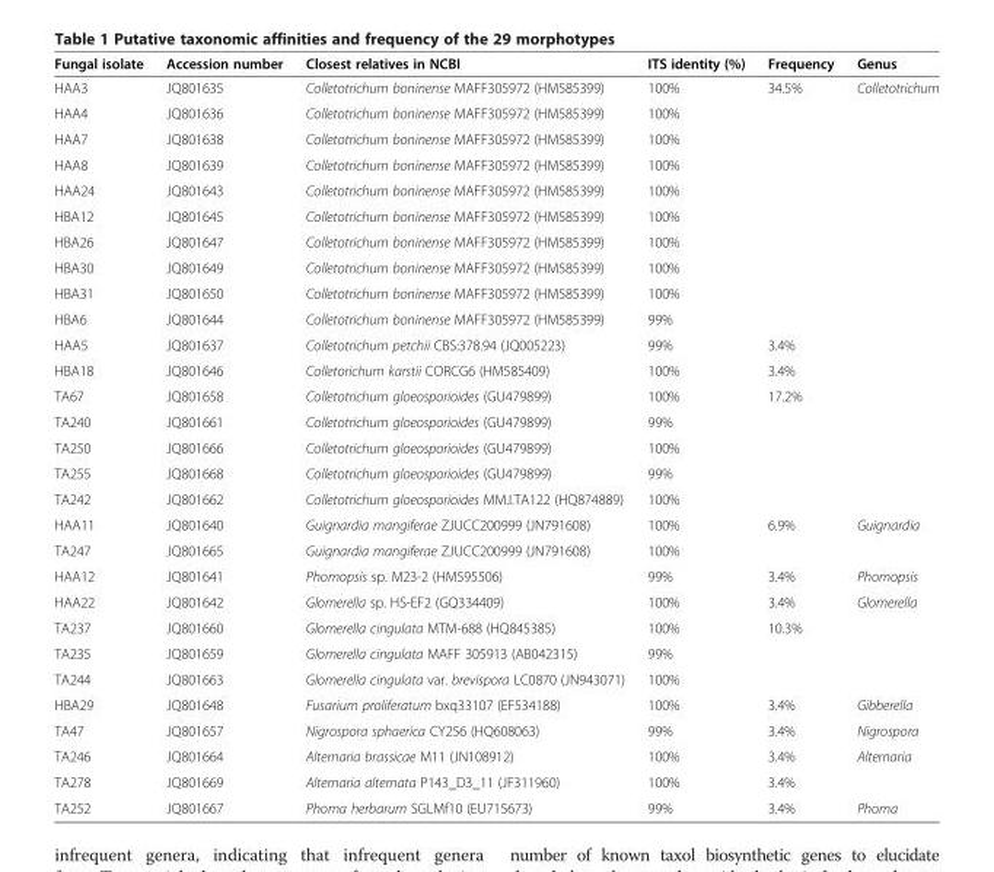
<table><thead><tr><td>Fungal isolate</td><td>Accession number</td><td>Closest relatives in NCBI</td><td>ITS identity (%)</td><td>Frequency</td><td>Genus</td></tr></thead><tbody><tr><td>HAA3</td><td>JQ801635</td><td>Colletotrichum boninense MAFF305972 (HM585399)</td><td>100%</td><td rowspan="10">34.5%</td><td rowspan="17">Colletotrichum</td></tr><tr><td>HAA4</td><td>JQ801636</td><td>Colletotrichum boninense MAFF305972 (HM585399)</td><td>100%</td></tr><tr><td>HAA7</td><td>JQ801638</td><td>Colletotrichum boninense MAFF305972 (HM585399)</td><td>100%</td></tr><tr><td>HAA8</td><td>JQ801639</td><td>Colletotrichum boninense MAFF305972 (HM585399)</td><td>100%</td></tr><tr><td>HAA24</td><td>JQ801643</td><td>Colletotrichum boninense MAFF305972 (HM585399)</td><td>100%</td></tr><tr><td>HBA12</td><td>JQ801645</td><td>Colletotrichum boninense MAFF305972 (HM585399)</td><td>100%</td></tr><tr><td>HBA26</td><td>JQ801647</td><td>Colletotrichum boninense MAFF305972 (HM585399)</td><td>100%</td></tr><tr><td>HBA30</td><td>JQ801649</td><td>Colletotrichum boninense MAFF305972 (HM585399)</td><td>100%</td></tr><tr><td>HBA31</td><td>JQ801650</td><td>Colletotrichum boninense MAFF305972 (HM585399)</td><td>100%</td></tr><tr><td>HBA6</td><td>JQ801644</td><td>Colletotrichum boninense MAFF305972 (HM585399)</td><td>99%</td></tr><tr><td>HAA5</td><td>JQ801637</td><td>Colletotrichum petchii CBS:378.94 (JQ005223)</td><td>99%</td><td>3.4%</td></tr><tr><td>HBA18</td><td>JQ801646</td><td>Colletorichum karstii CORCG6 (HM585409)</td><td>100%</td><td>3.4%</td></tr><tr><td>TA67</td><td>JQ801658</td><td>Colletotrichum gloeosporioides (GU479899)</td><td>100%</td><td rowspan="5">17.2%</td></tr><tr><td>TA240</td><td>JQ801661</td><td>Colletotrichum gloeosporioides (GU479899)</td><td>99%</td></tr><tr><td>TA250</td><td>JQ801666</td><td>Colletotrichum gloeosporioides (GU479899)</td><td>100%</td></tr><tr><td>TA255</td><td>JQ801668</td><td>Colletotrichum gloeosporioides (GU479899)</td><td>99%</td></tr><tr><td>TA242</td><td>JQ801662</td><td>Colletotrichum gloeosporioides MM.I.TA122 (HQ874889)</td><td>100%</td></tr><tr><td>HAA11</td><td>JQ801640</td><td>Guignardia mangiferae ZJUCC200999 (JN791608)</td><td>100%</td><td rowspan="2">6.9%</td><td rowspan="2">Guignardia</td></tr><tr><td>TA247</td><td>JQ801665</td><td>Guignardia mangiferae ZJUCC200999 (JN791608)</td><td>100%</td></tr><tr><td>HAA12</td><td>JQ801641</td><td>Phomopsis sp. M23-2 (HM595506)</td><td>99%</td><td>3.4%</td><td>Phomopsis</td></tr><tr><td>HAA22</td><td>JQ801642</td><td>Glomerella sp. HS-EF2 (GQ334409)</td><td>100%</td><td>3.4%</td><td rowspan="4">Glomerella</td></tr><tr><td>TA237</td><td>JQ801660</td><td>Glomerella cingulata MTM-688 (HQ845385)</td><td>100%</td><td rowspan="3">10.3%</td></tr><tr><td>TA235</td><td>JQ801659</td><td>Glomerella cingulata MAFF 305913 (AB042315)</td><td>99%</td></tr><tr><td>TA244</td><td>JQ801663</td><td>Glomerella cingulata var. brevispora LC0870 (JN943071)</td><td>100%</td></tr><tr><td>HBA29</td><td>JQ801648</td><td>Fusarium proliferatum bxq33107 (EF534188)</td><td>100%</td><td>3.4%</td><td>Gibberella</td></tr><tr><td>TA47</td><td>JQ801657</td><td>Nigrospora sphaerica CY256 (HQ608063)</td><td>99%</td><td>3.4%</td><td>Nigrospora</td></tr><tr><td>TA246</td><td>JQ801664</td><td>Alternaria brassicae M11 (JN108912)</td><td>100%</td><td>3.4%</td><td rowspan="2">Alternaria</td></tr><tr><td>TA278</td><td>JQ801669</td><td>Alternaria alternata P143_D3_11 (JF311960)</td><td>100%</td><td>3.4%</td></tr><tr><td>TA252</td><td>JQ801667</td><td>Phoma herbarum SGLMf10 (EU715673)</td><td>99%</td><td>3.4%</td><td>Phoma</td></tr></tbody></table>